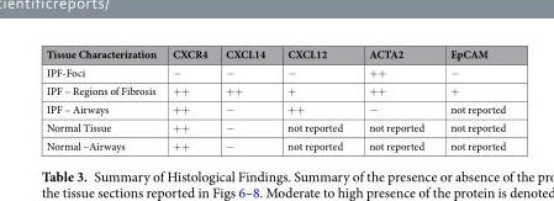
<table><thead><tr><td>Tissue Characterization</td><td>CXCR4</td><td>CXCL14</td><td>CXCL12</td><td>ACTA2</td><td>EpCAM</td></tr></thead><tbody><tr><td>IPF-Foci</td><td>−</td><td>−</td><td>−</td><td>++</td><td>−</td></tr><tr><td>IPF – Regions of Fibrosis</td><td>++</td><td>++</td><td>+</td><td>++</td><td>+</td></tr><tr><td>IPF – Airways</td><td>++</td><td>−</td><td>++</td><td>−</td><td>not reported</td></tr><tr><td>Normal Tissue</td><td>++</td><td>−</td><td>not reported</td><td>not reported</td><td>not reported</td></tr><tr><td>Normal –Airways</td><td>++</td><td>−</td><td>not reported</td><td>not reported</td><td>not reported</td></tr></tbody></table>